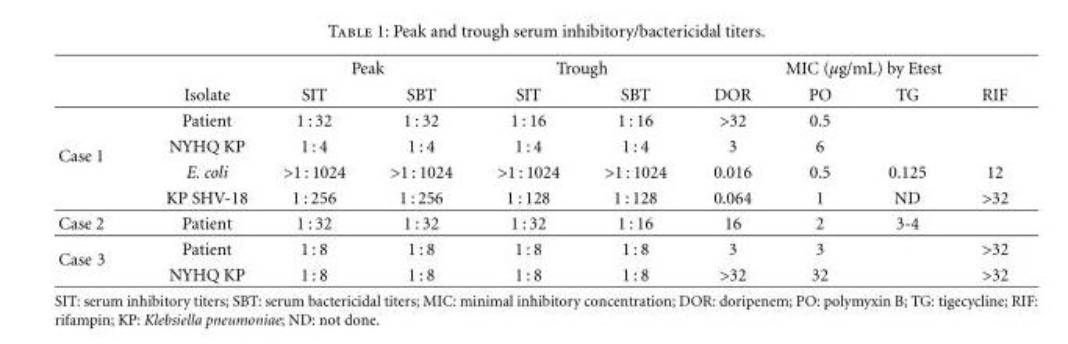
<table><thead><tr><td rowspan="2"></td><td rowspan="2">Isolate</td><td colspan="2">Peak</td><td colspan="2">Trough</td><td colspan="4">MIC (µg/mL) by Etest</td></tr><tr><td>SIT</td><td>SBT</td><td>SIT</td><td>SBT</td><td>DOR</td><td>PO</td><td>TG</td><td>RIF</td></tr></thead><tbody><tr><td rowspan="4">Case 1</td><td>Patient</td><td>1 : 32</td><td>1 : 32</td><td>1 : 16</td><td>1 : 16</td><td>&gt;32</td><td>0.5</td><td></td><td></td></tr><tr><td>NYHQ KP</td><td>1 : 4</td><td>1 : 4</td><td>1 : 4</td><td>1 : 4</td><td>3</td><td>6</td><td></td><td></td></tr><tr><td>E. coli</td><td>&gt;1 : 1024</td><td>&gt;1 : 1024</td><td>&gt;1 : 1024</td><td>&gt;1 : 1024</td><td>0.016</td><td>0.5</td><td>0.125</td><td>12</td></tr><tr><td>KP SHV-18</td><td>1 : 256</td><td>1 : 256</td><td>1 : 128</td><td>1 : 128</td><td>0.064</td><td>1</td><td>ND</td><td>&gt;32</td></tr><tr><td>Case 2</td><td>Patient</td><td>1 : 32</td><td>1 : 32</td><td>1 : 32</td><td>1 : 16</td><td>16</td><td>2</td><td>3-4</td><td></td></tr><tr><td rowspan="2">Case 3</td><td>Patient</td><td>1 : 8</td><td>1 : 8</td><td>1 : 8</td><td>1 : 8</td><td>3</td><td>3</td><td></td><td>&gt;32</td></tr><tr><td>NYHQ KP</td><td>1 : 8</td><td>1 : 8</td><td>1 : 8</td><td>1 : 8</td><td>&gt;32</td><td>32</td><td></td><td>&gt;32</td></tr></tbody></table>